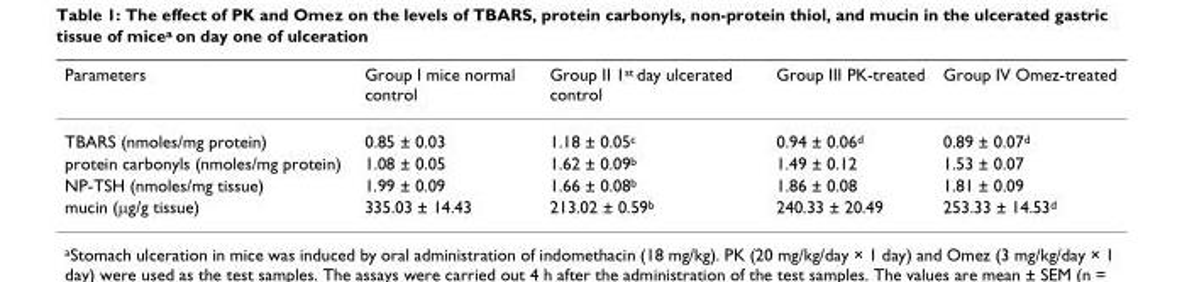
<table><thead><tr><td>Parameters</td><td>Group I mice normal control</td><td>Group II 1<sup>st</sup> day ulcerated control</td><td>Group III PK-treated</td><td>Group IV Omez-treated</td></tr></thead><tbody><tr><td>TBARS (nmoles/mg protein)</td><td>0.85 ± 0.03</td><td>1.18 ± 0.05<sup>c</sup></td><td>0.94 ± 0.06<sup>d</sup></td><td>0.89 ± 0.07<sup>d</sup></td></tr><tr><td>protein carbonyls (nmoles/mg protein)</td><td>1.08 ± 0.05</td><td>1.62 ± 0.09<sup>b</sup></td><td>1.49 ± 0.12</td><td>1.53 ± 0.07</td></tr><tr><td>NP-TSH (nmoles/mg tissue)</td><td>1.99 ± 0.09</td><td>1.66 ± 0.08<sup>b</sup></td><td>1.86 ± 0.08</td><td>1.81 ± 0.09</td></tr><tr><td>mucin (μg/g tissue)</td><td>335.03 ± 14.43</td><td>213.02 ± 0.59<sup>b</sup></td><td>240.33 ± 20.49</td><td>253.33 ± 14.53<sup>d</sup></td></tr></tbody></table>